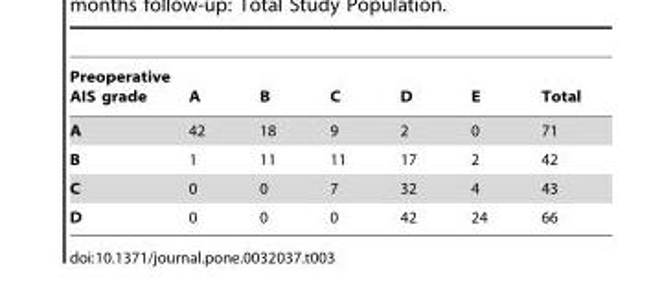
<table><thead><tr><td>Preoperative AIS grade</td><td>A</td><td>B</td><td>C</td><td>D</td><td>E</td><td>Total</td></tr></thead><tbody><tr><td>A</td><td>42</td><td>18</td><td>9</td><td>2</td><td>0</td><td>71</td></tr><tr><td>B</td><td>1</td><td>11</td><td>11</td><td>17</td><td>2</td><td>42</td></tr><tr><td>C</td><td>0</td><td>0</td><td>7</td><td>32</td><td>4</td><td>43</td></tr><tr><td>D</td><td>0</td><td>0</td><td>0</td><td>42</td><td>24</td><td>66</td></tr></tbody></table>